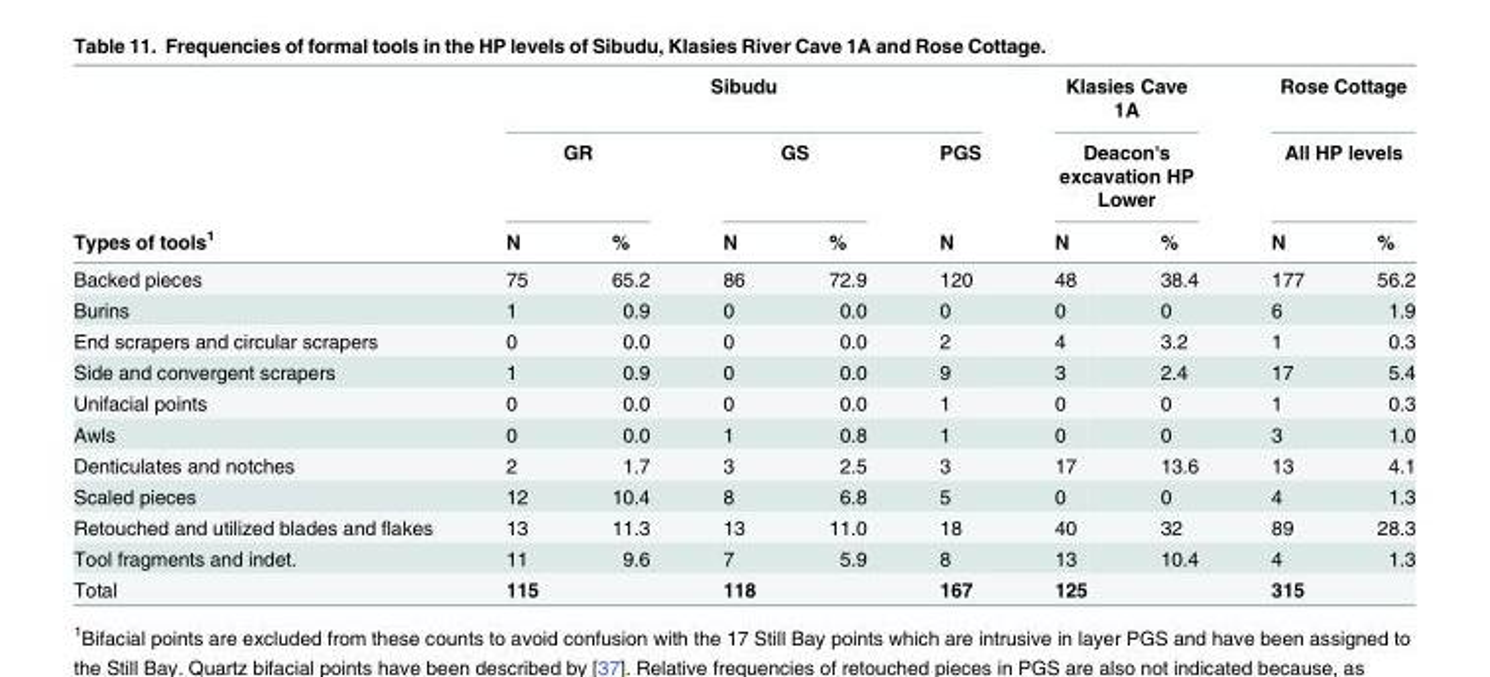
<table><thead><tr><td rowspan="3">Types of tools<sup>1</sup></td><td colspan="5">Sibudu</td><td rowspan="2" colspan="2">Klasies Cave 1A Deacon&#x27;s excavation HP Lower</td><td rowspan="2" colspan="2">Rose Cottage All HP levels</td></tr><tr><td colspan="2">GR</td><td colspan="2">GS</td><td rowspan="2">PGS N</td></tr><tr><td>N</td><td>%</td><td>N</td><td>%</td><td>N</td><td>%</td><td>N</td><td>%</td></tr></thead><tbody><tr><td>Backed pieces</td><td>75</td><td>65.2</td><td>86</td><td>72.9</td><td>120</td><td>48</td><td>38.4</td><td>177</td><td>56.2</td></tr><tr><td>Burins</td><td>1</td><td>0.9</td><td>0</td><td>0.0</td><td>0</td><td>0</td><td>0</td><td>6</td><td>1.9</td></tr><tr><td>End scrapers and circular scrapers</td><td>0</td><td>0.0</td><td>0</td><td>0.0</td><td>2</td><td>4</td><td>3.2</td><td>1</td><td>0.3</td></tr><tr><td>Side and convergent scrapers</td><td>1</td><td>0.9</td><td>0</td><td>0.0</td><td>9</td><td>3</td><td>2.4</td><td>17</td><td>5.4</td></tr><tr><td>Unifacial points</td><td>0</td><td>0.0</td><td>0</td><td>0.0</td><td>1</td><td>0</td><td>0</td><td>1</td><td>0.3</td></tr><tr><td>Awls</td><td>0</td><td>0.0</td><td>1</td><td>0.8</td><td>1</td><td>0</td><td>0</td><td>3</td><td>1.0</td></tr><tr><td>Denticulates and notches</td><td>2</td><td>1.7</td><td>3</td><td>2.5</td><td>3</td><td>17</td><td>13.6</td><td>13</td><td>4.1</td></tr><tr><td>Scaled pieces</td><td>12</td><td>10.4</td><td>8</td><td>6.8</td><td>5</td><td>0</td><td>0</td><td>4</td><td>1.3</td></tr><tr><td>Retouched and utilized blades and flakes</td><td>13</td><td>11.3</td><td>13</td><td>11.0</td><td>18</td><td>40</td><td>32</td><td>89</td><td>28.3</td></tr><tr><td>Tool fragments and indet.</td><td>11</td><td>9.6</td><td>7</td><td>5.9</td><td>8</td><td>13</td><td>10.4</td><td>4</td><td>1.3</td></tr><tr><td>Total</td><td>115</td><td></td><td>118</td><td></td><td>167</td><td>125</td><td></td><td>315</td><td></td></tr></tbody></table>